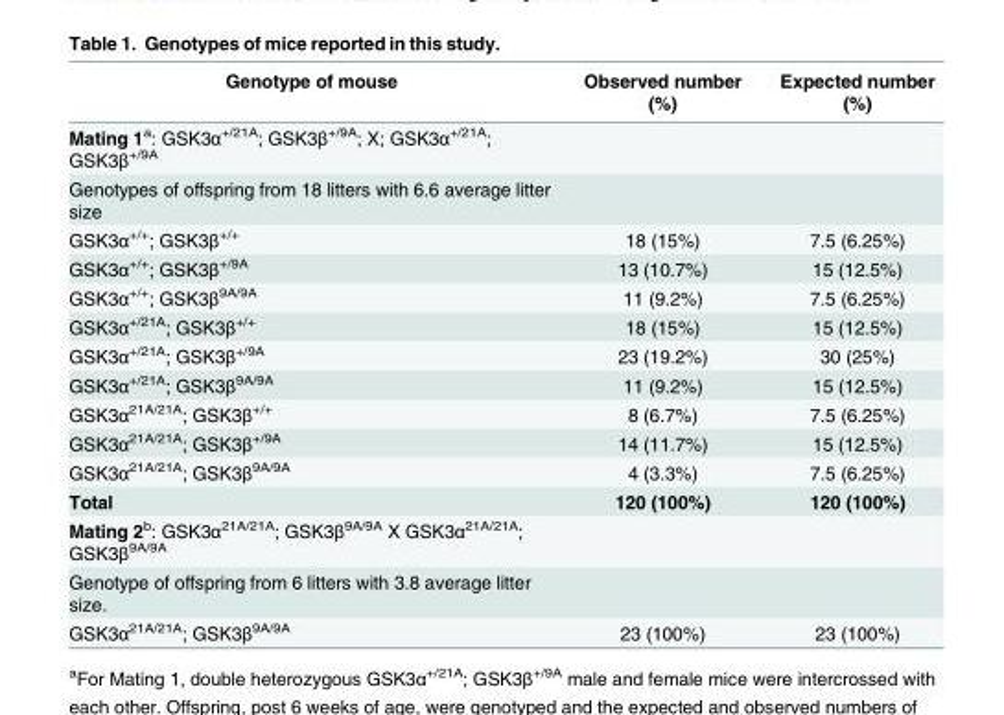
<table><thead><tr><td>Genotype of mouse</td><td>Observed number (%)</td><td>Expected number (%)</td></tr></thead><tbody><tr><td colspan="3">Mating 1<sup>a</sup>: GSK3α<sup>+/21A</sup>; GSK3β<sup>+/9A</sup>; X; GSK3α<sup>+/21A</sup>; GSK3β<sup>+/9A</sup></td></tr><tr><td colspan="3">Genotypes of offspring from 18 litters with 6.6 average litter size</td></tr><tr><td>GSK3α<sup>+/+</sup>; GSK3β<sup>+/+</sup></td><td>18 (15%)</td><td>7.5 (6.25%)</td></tr><tr><td>GSK3α<sup>+/+</sup>; GSK3β<sup>+/9A</sup></td><td>13 (10.7%)</td><td>15 (12.5%)</td></tr><tr><td>GSK3α<sup>+/+</sup>; GSK3β<sup>9A/9A</sup></td><td>11 (9.2%)</td><td>7.5 (6.25%)</td></tr><tr><td>GSK3α<sup>+/21A</sup>; GSK3β<sup>+/+</sup></td><td>18 (15%)</td><td>15 (12.5%)</td></tr><tr><td>GSK3α<sup>+/21A</sup>; GSK3β<sup>+/9A</sup></td><td>23 (19.2%)</td><td>30 (25%)</td></tr><tr><td>GSK3α<sup>+/21A</sup>; GSK3β<sup>9A/9A</sup></td><td>11 (9.2%)</td><td>15 (12.5%)</td></tr><tr><td>GSK3α<sup>21A/21A</sup>; GSK3β<sup>+/+</sup></td><td>8 (6.7%)</td><td>7.5 (6.25%)</td></tr><tr><td>GSK3α<sup>21A/21A</sup>; GSK3β<sup>+/9A</sup></td><td>14 (11.7%)</td><td>15 (12.5%)</td></tr><tr><td>GSK3α<sup>21A/21A</sup>; GSK3β<sup>9A/9A</sup></td><td>4 (3.3%)</td><td>7.5 (6.25%)</td></tr><tr><td>Total</td><td>120 (100%)</td><td>120 (100%)</td></tr><tr><td colspan="3">Mating 2<sup>b</sup>: GSK3α<sup>21A/21A</sup>; GSK3β<sup>9A/9A</sup> X GSK3α<sup>21A/21A</sup>; GSK3β<sup>9A/9A</sup></td></tr><tr><td colspan="3">Genotype of offspring from 6 litters with 3.8 average litter size.</td></tr><tr><td>GSK3α<sup>21A/21A</sup>; GSK3β<sup>9A/9A</sup></td><td>23 (100%)</td><td>23 (100%)</td></tr></tbody></table>